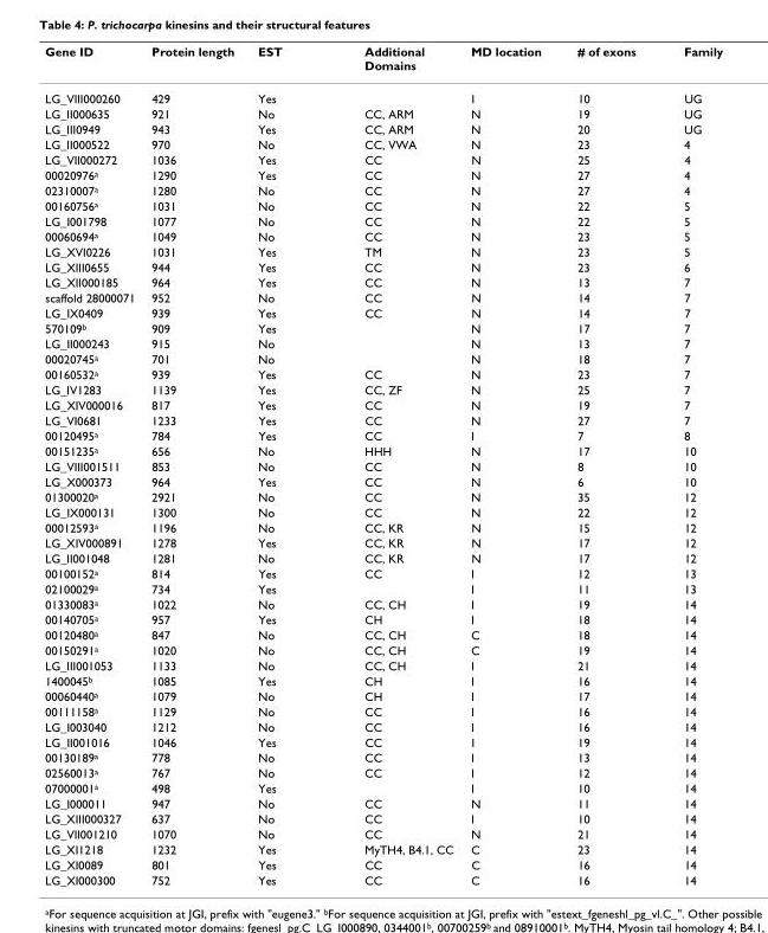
<table><thead><tr><td>Gene ID</td><td>Protein length</td><td>EST</td><td>Additional Domains</td><td>MD location</td><td># of exons</td><td>Family</td></tr></thead><tbody><tr><td>LG_VIII000260</td><td>429</td><td>Yes</td><td></td><td>I</td><td>10</td><td>UG</td></tr><tr><td>LG_II000635</td><td>921</td><td>No</td><td>CC, ARM</td><td>N</td><td>19</td><td>UG</td></tr><tr><td>LG_III0949</td><td>943</td><td>Yes</td><td>CC, ARM</td><td>N</td><td>20</td><td>UG</td></tr><tr><td>LG_II000522</td><td>970</td><td>No</td><td>CC, VWA</td><td>N</td><td>23</td><td>4</td></tr><tr><td>LG_VII000272</td><td>1036</td><td>Yes</td><td>CC</td><td>N</td><td>25</td><td>4</td></tr><tr><td>00020976a</td><td>1290</td><td>Yes</td><td>CC</td><td>N</td><td>27</td><td>4</td></tr><tr><td>02310007a</td><td>1280</td><td>No</td><td>CC</td><td>N</td><td>27</td><td>4</td></tr><tr><td>00160756a</td><td>1031</td><td>No</td><td>CC</td><td>N</td><td>22</td><td>5</td></tr><tr><td>LG_I001798</td><td>1077</td><td>No</td><td>CC</td><td>N</td><td>22</td><td>5</td></tr><tr><td>00060694a</td><td>1049</td><td>No</td><td>CC</td><td>N</td><td>23</td><td>5</td></tr><tr><td>LG_XVI0226</td><td>1031</td><td>Yes</td><td>TM</td><td>N</td><td>23</td><td>5</td></tr><tr><td>LG_XIII0655</td><td>944</td><td>Yes</td><td>CC</td><td>N</td><td>23</td><td>6</td></tr><tr><td>LG_XII000185</td><td>964</td><td>Yes</td><td>CC</td><td>N</td><td>13</td><td>7</td></tr><tr><td>scaffold 28000071</td><td>952</td><td>No</td><td>CC</td><td>N</td><td>14</td><td>7</td></tr><tr><td>LG_IX0409</td><td>939</td><td>Yes</td><td>CC</td><td>N</td><td>14</td><td>7</td></tr><tr><td>570109b</td><td>909</td><td>Yes</td><td></td><td>N</td><td>17</td><td>7</td></tr><tr><td>LG_II000243</td><td>915</td><td>No</td><td></td><td>N</td><td>13</td><td>7</td></tr><tr><td>00020745a</td><td>701</td><td>No</td><td></td><td>N</td><td>18</td><td>7</td></tr><tr><td>00160532a</td><td>939</td><td>Yes</td><td>CC</td><td>N</td><td>23</td><td>7</td></tr><tr><td>LG_IV1283</td><td>1139</td><td>Yes</td><td>CC, ZF</td><td>N</td><td>25</td><td>7</td></tr><tr><td>LG_XIV000016</td><td>817</td><td>Yes</td><td>CC</td><td>N</td><td>19</td><td>7</td></tr><tr><td>LG_VI0681</td><td>1233</td><td>Yes</td><td>CC</td><td>N</td><td>27</td><td>7</td></tr><tr><td>00120495a</td><td>784</td><td>Yes</td><td>CC</td><td>I</td><td>7</td><td>8</td></tr><tr><td>00151235a</td><td>656</td><td>No</td><td>HHH</td><td>N</td><td>17</td><td>10</td></tr><tr><td>LG_VIII001511</td><td>853</td><td>No</td><td>CC</td><td>N</td><td>8</td><td>10</td></tr><tr><td>LG_X000373</td><td>964</td><td>Yes</td><td>CC</td><td>N</td><td>6</td><td>10</td></tr><tr><td>01300020a</td><td>2921</td><td>No</td><td>CC</td><td>N</td><td>35</td><td>12</td></tr><tr><td>LG_IX000131</td><td>1300</td><td>No</td><td>CC</td><td>N</td><td>22</td><td>12</td></tr><tr><td>00012593a</td><td>1196</td><td>No</td><td>CC, KR</td><td>N</td><td>15</td><td>12</td></tr><tr><td>LG_XIV000891</td><td>1278</td><td>Yes</td><td>CC, KR</td><td>N</td><td>17</td><td>12</td></tr><tr><td>LG_II001048</td><td>1281</td><td>No</td><td>CC, KR</td><td>N</td><td>17</td><td>12</td></tr><tr><td>00100152a</td><td>814</td><td>Yes</td><td>CC</td><td>I</td><td>12</td><td>13</td></tr><tr><td>02100029a</td><td>734</td><td>Yes</td><td></td><td>I</td><td>11</td><td>13</td></tr><tr><td>01330083a</td><td>1022</td><td>No</td><td>CC, CH</td><td>I</td><td>19</td><td>14</td></tr><tr><td>00140705a</td><td>957</td><td>Yes</td><td>CH</td><td>I</td><td>18</td><td>14</td></tr><tr><td>00120480a</td><td>847</td><td>No</td><td>CC, CH</td><td>C</td><td>18</td><td>14</td></tr><tr><td>00150291a</td><td>1020</td><td>No</td><td>CC, CH</td><td>C</td><td>19</td><td>14</td></tr><tr><td>LG_III001053</td><td>1133</td><td>No</td><td>CC, CH</td><td>I</td><td>21</td><td>14</td></tr><tr><td>1400045b</td><td>1085</td><td>Yes</td><td>CH</td><td>I</td><td>16</td><td>14</td></tr><tr><td>00060440a</td><td>1079</td><td>No</td><td>CH</td><td>I</td><td>17</td><td>14</td></tr><tr><td>00111158a</td><td>1129</td><td>No</td><td>CC</td><td>I</td><td>16</td><td>14</td></tr><tr><td>LG_I003040</td><td>1212</td><td>No</td><td>CC</td><td>I</td><td>16</td><td>14</td></tr><tr><td>LG_II001016</td><td>1046</td><td>Yes</td><td>CC</td><td>I</td><td>19</td><td>14</td></tr><tr><td>00130189a</td><td>778</td><td>No</td><td>CC</td><td>I</td><td>13</td><td>14</td></tr><tr><td>02560013a</td><td>767</td><td>No</td><td>CC</td><td>I</td><td>12</td><td>14</td></tr><tr><td>07000001a</td><td>498</td><td>Yes</td><td></td><td>I</td><td>10</td><td>14</td></tr><tr><td>LG_I000011</td><td>947</td><td>No</td><td>CC</td><td>N</td><td>11</td><td>14</td></tr><tr><td>LG_XIII000327</td><td>637</td><td>No</td><td>CC</td><td>I</td><td>10</td><td>14</td></tr><tr><td>LG_VII001210</td><td>1070</td><td>No</td><td>CC</td><td>N</td><td>21</td><td>14</td></tr><tr><td>LG_XI1218</td><td>1232</td><td>Yes</td><td>MyTH4, B4.1, CC</td><td>C</td><td>23</td><td>14</td></tr><tr><td>LG_XI0089</td><td>801</td><td>Yes</td><td>CC</td><td>C</td><td>16</td><td>14</td></tr><tr><td>LG_XI000300</td><td>752</td><td>Yes</td><td>CC</td><td>C</td><td>16</td><td>14</td></tr></tbody></table>